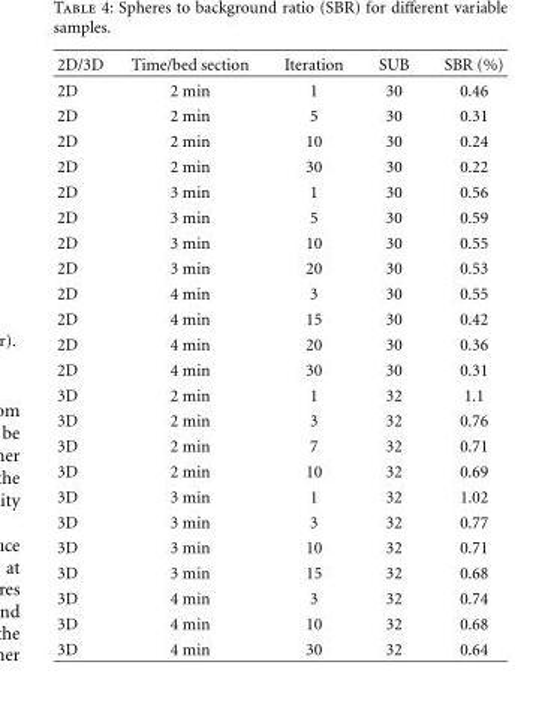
<table><thead><tr><td>2D/3D</td><td>Time/bed section</td><td>Iteration</td><td>SUB</td><td>SBR (%)</td></tr></thead><tbody><tr><td>2D</td><td>2 min</td><td>1</td><td>30</td><td>0.46</td></tr><tr><td>2D</td><td>2 min</td><td>5</td><td>30</td><td>0.31</td></tr><tr><td>2D</td><td>2 min</td><td>10</td><td>30</td><td>0.24</td></tr><tr><td>2D</td><td>2 min</td><td>30</td><td>30</td><td>0.22</td></tr><tr><td>2D</td><td>3 min</td><td>1</td><td>30</td><td>0.56</td></tr><tr><td>2D</td><td>3 min</td><td>5</td><td>30</td><td>0.59</td></tr><tr><td>2D</td><td>3 min</td><td>10</td><td>30</td><td>0.55</td></tr><tr><td>2D</td><td>3 min</td><td>20</td><td>30</td><td>0.53</td></tr><tr><td>2D</td><td>4 min</td><td>3</td><td>30</td><td>0.55</td></tr><tr><td>2D</td><td>4 min</td><td>15</td><td>30</td><td>0.42</td></tr><tr><td>2D</td><td>4 min</td><td>20</td><td>30</td><td>0.36</td></tr><tr><td>2D</td><td>4 min</td><td>30</td><td>30</td><td>0.31</td></tr><tr><td>3D</td><td>2 min</td><td>1</td><td>32</td><td>1.1</td></tr><tr><td>3D</td><td>2 min</td><td>3</td><td>32</td><td>0.76</td></tr><tr><td>3D</td><td>2 min</td><td>7</td><td>32</td><td>0.71</td></tr><tr><td>3D</td><td>2 min</td><td>10</td><td>32</td><td>0.69</td></tr><tr><td>3D</td><td>3 min</td><td>1</td><td>32</td><td>1.02</td></tr><tr><td>3D</td><td>3 min</td><td>3</td><td>32</td><td>0.77</td></tr><tr><td>3D</td><td>3 min</td><td>10</td><td>32</td><td>0.71</td></tr><tr><td>3D</td><td>3 min</td><td>15</td><td>32</td><td>0.68</td></tr><tr><td>3D</td><td>4 min</td><td>3</td><td>32</td><td>0.74</td></tr><tr><td>3D</td><td>4 min</td><td>10</td><td>32</td><td>0.68</td></tr><tr><td>3D</td><td>4 min</td><td>30</td><td>32</td><td>0.64</td></tr></tbody></table>